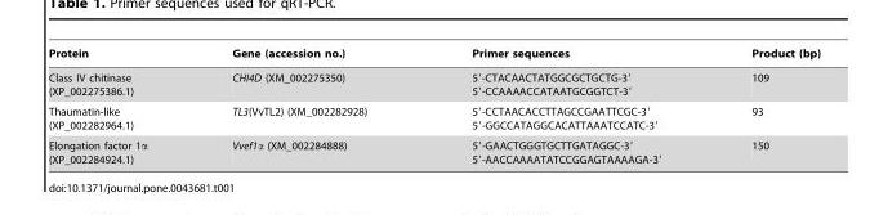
<table><thead><tr><td>Protein</td><td>Gene (accession no.)</td><td>Primer sequences</td><td>Product (bp)</td></tr></thead><tbody><tr><td>Class IV chitinase (XP_002275386.1)</td><td>CHI4D (XM_002275350)</td><td>5′-CTACAACTATGGCGCTGCTG-3′ 5′-CCAAAACCATAATGCGGTCT-3′</td><td>109</td></tr><tr><td>Thaumatin-like (XP_002282964.1)</td><td>TL3(VvTL2) (XM_002282928)</td><td>5′-CCTAACACCTTAGCCGAATTCGC-3′ 5′-GGCCATAGGCACATTAAATCCATC-3′</td><td>93</td></tr><tr><td>Elongation factor 1α (XP_002284924.1)</td><td>Vvef1α (XM_002284888)</td><td>5′-GAACTGGGTGCTTGATAGGC-3′ 5′-AACCAAAATATCCGGAGTAAAAGA-3′</td><td>150</td></tr></tbody></table>